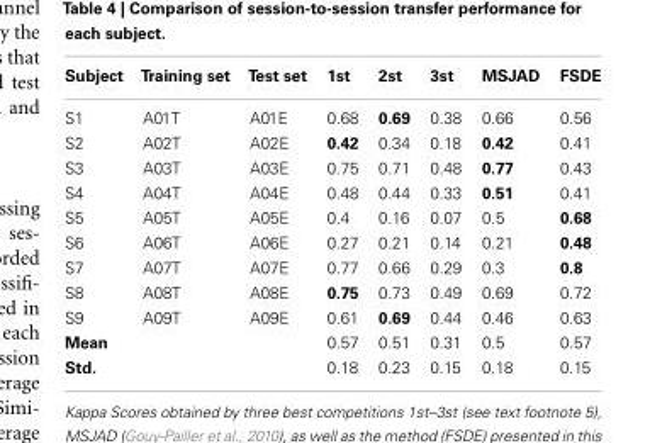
<table><thead><tr><td>Subject</td><td>Training set</td><td>Test set</td><td>1st</td><td>2st</td><td>3st</td><td>MSJAD</td><td>FSDE</td></tr></thead><tbody><tr><td>S1</td><td>A01T</td><td>A01E</td><td>0.68</td><td>0.69</td><td>0.38</td><td>0.66</td><td>0.56</td></tr><tr><td>S2</td><td>A02T</td><td>A02E</td><td>0.42</td><td>0.34</td><td>0.18</td><td>0.42</td><td>0.41</td></tr><tr><td>S3</td><td>A03T</td><td>A03E</td><td>0.75</td><td>0.71</td><td>0.48</td><td>0.77</td><td>0.43</td></tr><tr><td>S4</td><td>A04T</td><td>A04E</td><td>0.48</td><td>0.44</td><td>0.33</td><td>0.51</td><td>0.41</td></tr><tr><td>S5</td><td>A05T</td><td>A05E</td><td>0.4</td><td>0.16</td><td>0.07</td><td>0.5</td><td>0.68</td></tr><tr><td>S6</td><td>A06T</td><td>A06E</td><td>0.27</td><td>0.21</td><td>0.14</td><td>0.21</td><td>0.48</td></tr><tr><td>S7</td><td>A07T</td><td>A07E</td><td>0.77</td><td>0.66</td><td>0.29</td><td>0.3</td><td>0.8</td></tr><tr><td>S8</td><td>A08T</td><td>A08E</td><td>0.75</td><td>0.73</td><td>0.49</td><td>0.69</td><td>0.72</td></tr><tr><td>S9</td><td>A09T</td><td>A09E</td><td>0.61</td><td>0.69</td><td>0.44</td><td>0.46</td><td>0.63</td></tr><tr><td>Mean</td><td></td><td></td><td>0.57</td><td>0.51</td><td>0.31</td><td>0.5</td><td>0.57</td></tr><tr><td>Std.</td><td></td><td></td><td>0.18</td><td>0.23</td><td>0.15</td><td>0.18</td><td>0.15</td></tr></tbody></table>